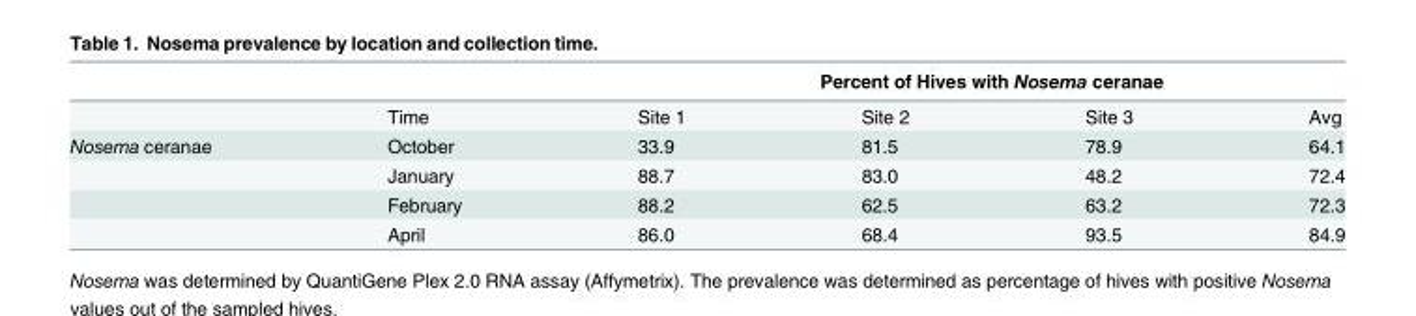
<table><thead><tr><td rowspan="2"></td><td rowspan="2">Time</td><td colspan="4">Percent of Hives with Nosema ceranae</td></tr><tr><td>Site 1</td><td>Site 2</td><td>Site 3</td><td>Avg</td></tr></thead><tbody><tr><td rowspan="4">Nosema ceranae</td><td>October</td><td>33.9</td><td>81.5</td><td>78.9</td><td>64.1</td></tr><tr><td>January</td><td>88.7</td><td>83.0</td><td>48.2</td><td>72.4</td></tr><tr><td>February</td><td>88.2</td><td>62.5</td><td>63.2</td><td>72.3</td></tr><tr><td>April</td><td>86.0</td><td>68.4</td><td>93.5</td><td>84.9</td></tr></tbody></table>